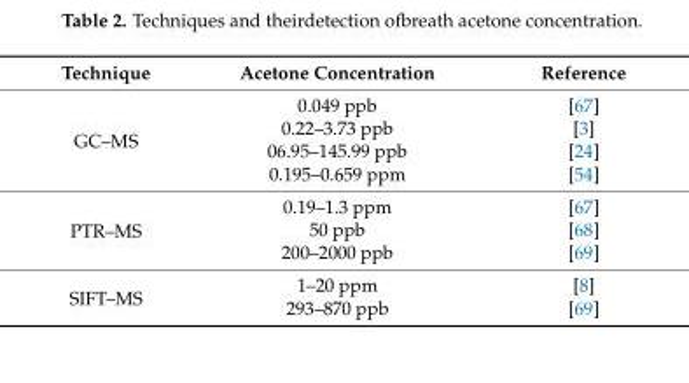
<table><thead><tr><td>Technique</td><td>Acetone Concentration</td><td>Reference</td></tr></thead><tbody><tr><td rowspan="4">GC–MS</td><td>0.049 ppb</td><td>[67]</td></tr><tr><td>0.22–3.73 ppb</td><td>[3]</td></tr><tr><td>06.95–145.99 ppb</td><td>[24]</td></tr><tr><td>0.195–0.659 ppm</td><td>[54]</td></tr><tr><td rowspan="3">PTR–MS</td><td>0.19–1.3 ppm</td><td>[67]</td></tr><tr><td>50 ppb</td><td>[68]</td></tr><tr><td>200–2000 ppb</td><td>[69]</td></tr><tr><td rowspan="2">SIFT–MS</td><td>1–20 ppm</td><td>[8]</td></tr><tr><td>293–870 ppb</td><td>[69]</td></tr></tbody></table>